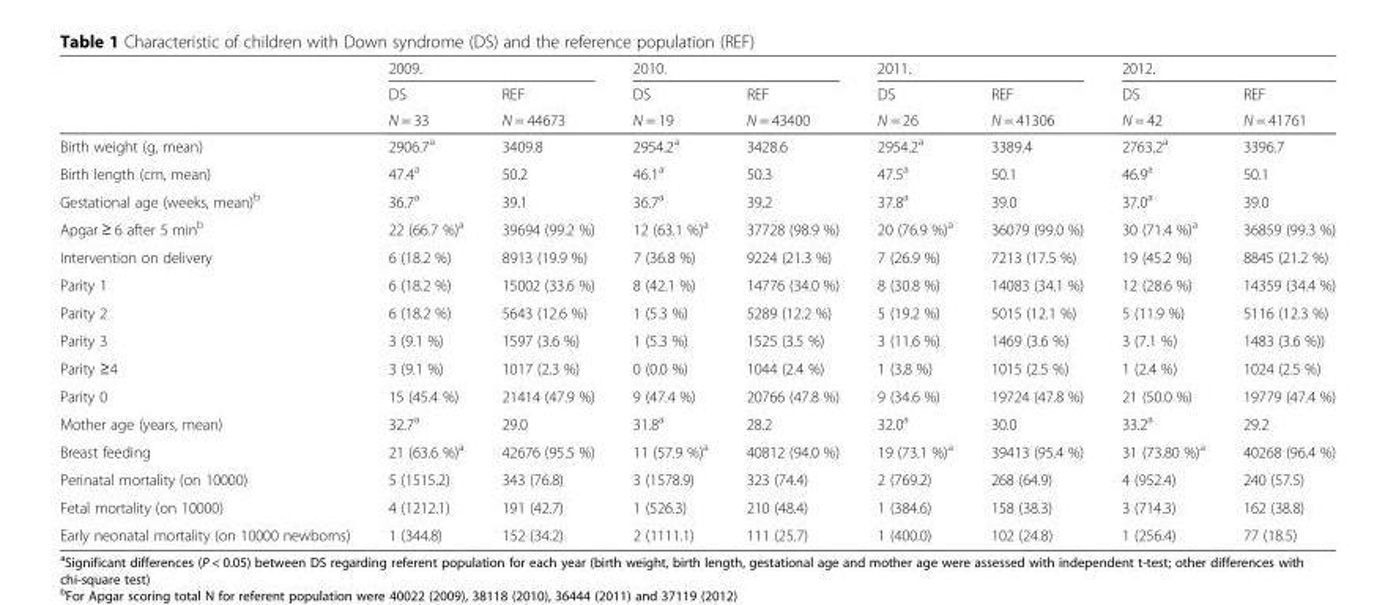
<table><thead><tr><td rowspan="3"></td><td colspan="2">2009.</td><td colspan="2">2010.</td><td colspan="2">2011.</td><td colspan="2">2012.</td></tr><tr><td rowspan="2">DS N = 33</td><td rowspan="2">REF N = 44673</td><td rowspan="2">DS N = 19</td><td rowspan="2">REF N = 43400</td><td rowspan="2">DS N = 26</td><td rowspan="2">REF N = 41306</td><td rowspan="2">DS N = 42</td><td rowspan="2">REF N = 41761</td></tr><tr></tr></thead><tbody><tr><td>Birth weight (g, mean)</td><td>2906.7<sup>a</sup></td><td>3409.8</td><td>2954.2<sup>a</sup></td><td>3428.6</td><td>2954.2<sup>a</sup></td><td>3389.4</td><td>2763.2<sup>a</sup></td><td>3396.7</td></tr><tr><td>Birth length (cm, mean)</td><td>47.4<sup>a</sup></td><td>50.2</td><td>46.1<sup>a</sup></td><td>50.3</td><td>47.5<sup>a</sup></td><td>50.1</td><td>46.9<sup>a</sup></td><td>50.1</td></tr><tr><td>Gestational age (weeks, mean)<sup>b</sup></td><td>36.7<sup>a</sup></td><td>39.1</td><td>36.7<sup>a</sup></td><td>39.2</td><td>37.8<sup>a</sup></td><td>39.0</td><td>37.0<sup>a</sup></td><td>39.0</td></tr><tr><td>Apgar ≥ 6 after 5 min<sup>b</sup></td><td>22 (66.7 %)<sup>a</sup></td><td>39694 (99.2 %)</td><td>12 (63.1 %)<sup>a</sup></td><td>37728 (98.9 %)</td><td>20 (76.9 %)<sup>a</sup></td><td>36079 (99.0 %)</td><td>30 (71.4 %)<sup>a</sup></td><td>36859 (99.3 %)</td></tr><tr><td>Intervention on delivery</td><td>6 (18.2 %)</td><td>8913 (19.9 %)</td><td>7 (36.8 %)</td><td>9224 (21.3 %)</td><td>7 (26.9 %)</td><td>7213 (17.5 %)</td><td>19 (45.2 %)</td><td>8845 (21.2 %)</td></tr><tr><td>Parity 1</td><td>6 (18.2 %)</td><td>15002 (33.6 %)</td><td>8 (42.1 %)</td><td>14776 (34.0 %)</td><td>8 (30.8 %)</td><td>14083 (34.1 %)</td><td>12 (28.6 %)</td><td>14359 (34.4 %)</td></tr><tr><td>Parity 2</td><td>6 (18.2 %)</td><td>5643 (12.6 %)</td><td>1 (5.3 %)</td><td>5289 (12.2 %)</td><td>5 (19.2 %)</td><td>5015 (12.1 %)</td><td>5 (11.9 %)</td><td>5116 (12.3 %)</td></tr><tr><td>Parity 3</td><td>3 (9.1 %)</td><td>1597 (3.6 %)</td><td>1 (5.3 %)</td><td>1525 (3.5 %)</td><td>3 (11.6 %)</td><td>1469 (3.6 %)</td><td>3 (7.1 %)</td><td>1483 (3.6 %))</td></tr><tr><td>Parity ≥4</td><td>3 (9.1 %)</td><td>1017 (2.3 %)</td><td>0 (0.0 %)</td><td>1044 (2.4 %)</td><td>1 (3.8 %)</td><td>1015 (2.5 %)</td><td>1 (2.4 %)</td><td>1024 (2.5 %)</td></tr><tr><td>Parity 0</td><td>15 (45.4 %)</td><td>21414 (47.9 %)</td><td>9 (47.4 %)</td><td>20766 (47.8 %)</td><td>9 (34.6 %)</td><td>19724 (47.8 %)</td><td>21 (50.0 %)</td><td>19779 (47.4 %)</td></tr><tr><td>Mother age (years, mean)</td><td>32.7<sup>a</sup></td><td>29.0</td><td>31.8<sup>a</sup></td><td>28.2</td><td>32.0<sup>a</sup></td><td>30.0</td><td>33.2<sup>a</sup></td><td>29.2</td></tr><tr><td>Breast feeding</td><td>21 (63.6 %)<sup>a</sup></td><td>42676 (95.5 %)</td><td>11 (57.9 %)<sup>a</sup></td><td>40812 (94.0 %)</td><td>19 (73.1 %)<sup>a</sup></td><td>39413 (95.4 %)</td><td>31 (73.80 %)<sup>a</sup></td><td>40268 (96.4 %)</td></tr><tr><td>Perinatal mortality (on 10000)</td><td>5 (1515.2)</td><td>343 (76.8)</td><td>3 (1578.9)</td><td>323 (74.4)</td><td>2 (769.2)</td><td>268 (64.9)</td><td>4 (952.4)</td><td>240 (57.5)</td></tr><tr><td>Fetal mortality (on 10000)</td><td>4 (1212.1)</td><td>191 (42.7)</td><td>1 (526.3)</td><td>210 (48.4)</td><td>1 (384.6)</td><td>158 (38.3)</td><td>3 (714.3)</td><td>162 (38.8)</td></tr><tr><td>Early neonatal mortality (on 10000 newborns)</td><td>1 (344.8)</td><td>152 (34.2)</td><td>2 (1111.1)</td><td>111 (25.7)</td><td>1 (400.0)</td><td>102 (24.8)</td><td>1 (256.4)</td><td>77 (18.5)</td></tr></tbody></table>